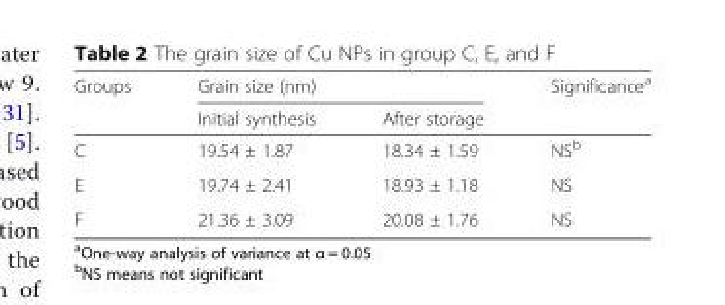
<table><thead><tr><td rowspan="2">Groups</td><td colspan="2">Grain size (nm)</td><td rowspan="2">Significance<sup>a</sup></td></tr><tr><td>Initial synthesis</td><td>After storage</td></tr></thead><tbody><tr><td>C</td><td>19.54 ± 1.87</td><td>18.34 ± 1.59</td><td>NS<sup>b</sup></td></tr><tr><td>E</td><td>19.74 ± 2.41</td><td>18.93 ± 1.18</td><td>NS</td></tr><tr><td>F</td><td>21.36 ± 3.09</td><td>20.08 ± 1.76</td><td>NS</td></tr></tbody></table>